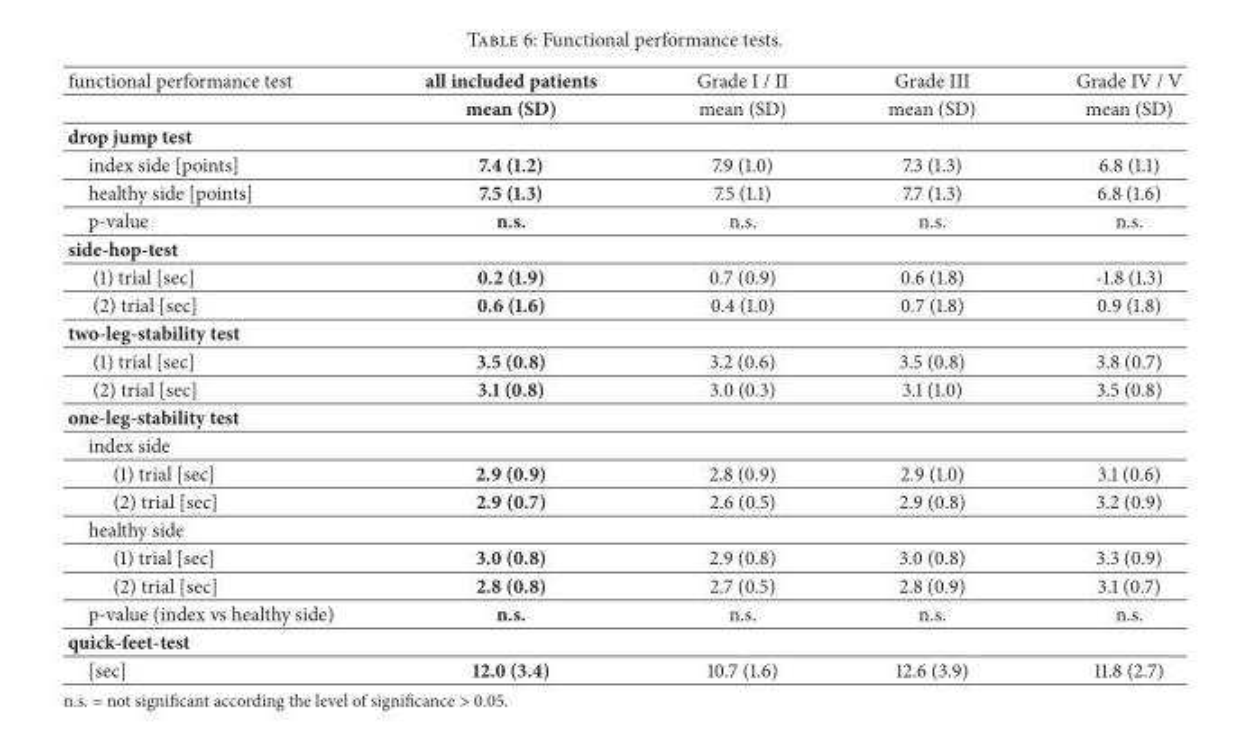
<table><thead><tr><td>functional performance test</td><td>all included patients</td><td>Grade I / II</td><td>Grade III</td><td>Grade IV / V</td></tr></thead><tbody><tr><td></td><td>mean (SD)</td><td>mean (SD)</td><td>mean (SD)</td><td>mean (SD)</td></tr><tr><td colspan="5">drop jump test</td></tr><tr><td>index side [points]</td><td>7.4 (1.2)</td><td>7.9 (1.0)</td><td>7.3 (1.3)</td><td>6.8 (1.1)</td></tr><tr><td>healthy side [points]</td><td>7.5 (1.3)</td><td>7.5 (1.1)</td><td>7.7 (1.3)</td><td>6.8 (1.6)</td></tr><tr><td>p-value</td><td>n.s.</td><td>n.s.</td><td>n.s.</td><td>n.s.</td></tr><tr><td colspan="5">side-hop-test</td></tr><tr><td>(1) trial [sec]</td><td>0.2 (1.9)</td><td>0.7 (0.9)</td><td>0.6 (1.8)</td><td>-1.8 (1.3)</td></tr><tr><td>(2) trial [sec]</td><td>0.6 (1.6)</td><td>0.4 (1.0)</td><td>0.7 (1.8)</td><td>0.9 (1.8)</td></tr><tr><td colspan="5">two-leg-stability test</td></tr><tr><td>(1) trial [sec]</td><td>3.5 (0.8)</td><td>3.2 (0.6)</td><td>3.5 (0.8)</td><td>3.8 (0.7)</td></tr><tr><td>(2) trial [sec]</td><td>3.1 (0.8)</td><td>3.0 (0.3)</td><td>3.1 (1.0)</td><td>3.5 (0.8)</td></tr><tr><td colspan="5">one-leg-stability test</td></tr><tr><td colspan="5">index side</td></tr><tr><td>(1) trial [sec]</td><td>2.9 (0.9)</td><td>2.8 (0.9)</td><td>2.9 (1.0)</td><td>3.1 (0.6)</td></tr><tr><td>(2) trial [sec]</td><td>2.9 (0.7)</td><td>2.6 (0.5)</td><td>2.9 (0.8)</td><td>3.2 (0.9)</td></tr><tr><td colspan="5">healthy side</td></tr><tr><td>(1) trial [sec]</td><td>3.0 (0.8)</td><td>2.9 (0.8)</td><td>3.0 (0.8)</td><td>3.3 (0.9)</td></tr><tr><td>(2) trial [sec]</td><td>2.8 (0.8)</td><td>2.7 (0.5)</td><td>2.8 (0.9)</td><td>3.1 (0.7)</td></tr><tr><td>p-value (index vs healthy side)</td><td>n.s.</td><td>n.s.</td><td>n.s.</td><td>n.s.</td></tr><tr><td colspan="5">quick-feet-test</td></tr><tr><td>[sec]</td><td>12.0 (3.4)</td><td>10.7 (1.6)</td><td>12.6 (3.9)</td><td>11.8 (2.7)</td></tr></tbody></table>